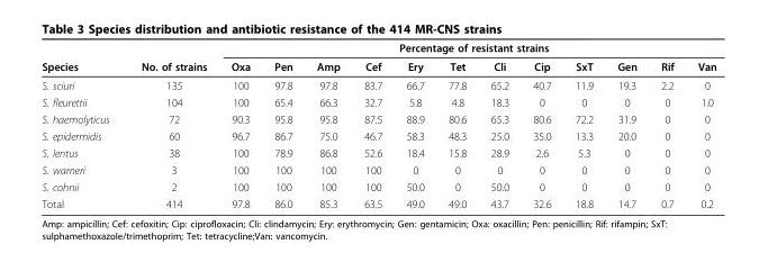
<table><thead><tr><td rowspan="2">Species</td><td rowspan="2">No. of strains</td><td colspan="12">Percentage of resistant strains</td></tr><tr><td>Oxa</td><td>Pen</td><td>Amp</td><td>Cef</td><td>Ery</td><td>Tet</td><td>Cli</td><td>Cip</td><td>SxT</td><td>Gen</td><td>Rif</td><td>Van</td></tr></thead><tbody><tr><td>S. sciuri</td><td>135</td><td>100</td><td>97.8</td><td>97.8</td><td>83.7</td><td>66.7</td><td>77.8</td><td>65.2</td><td>40.7</td><td>11.9</td><td>19.3</td><td>2.2</td><td>0</td></tr><tr><td>S. fleurettii</td><td>104</td><td>100</td><td>65.4</td><td>66.3</td><td>32.7</td><td>5.8</td><td>4.8</td><td>18.3</td><td>0</td><td>0</td><td>0</td><td>0</td><td>1.0</td></tr><tr><td>S. haemolyticus</td><td>72</td><td>90.3</td><td>95.8</td><td>95.8</td><td>87.5</td><td>88.9</td><td>80.6</td><td>65.3</td><td>80.6</td><td>72.2</td><td>31.9</td><td>0</td><td>0</td></tr><tr><td>S. epidermidis</td><td>60</td><td>96.7</td><td>86.7</td><td>75.0</td><td>46.7</td><td>58.3</td><td>48.3</td><td>25.0</td><td>35.0</td><td>13.3</td><td>20.0</td><td>0</td><td>0</td></tr><tr><td>S. lentus</td><td>38</td><td>100</td><td>78.9</td><td>86.8</td><td>52.6</td><td>18.4</td><td>15.8</td><td>28.9</td><td>2.6</td><td>5.3</td><td>0</td><td>0</td><td>0</td></tr><tr><td>S. warneri</td><td>3</td><td>100</td><td>100</td><td>100</td><td>100</td><td>0</td><td>0</td><td>0</td><td>0</td><td>0</td><td>0</td><td>0</td><td>0</td></tr><tr><td>S. cohnii</td><td>2</td><td>100</td><td>100</td><td>100</td><td>100</td><td>50.0</td><td>0</td><td>50.0</td><td>0</td><td>0</td><td>0</td><td>0</td><td>0</td></tr><tr><td>Total</td><td>414</td><td>97.8</td><td>86.0</td><td>85.3</td><td>63.5</td><td>49.0</td><td>49.0</td><td>43.7</td><td>32.6</td><td>18.8</td><td>14.7</td><td>0.7</td><td>0.2</td></tr></tbody></table>